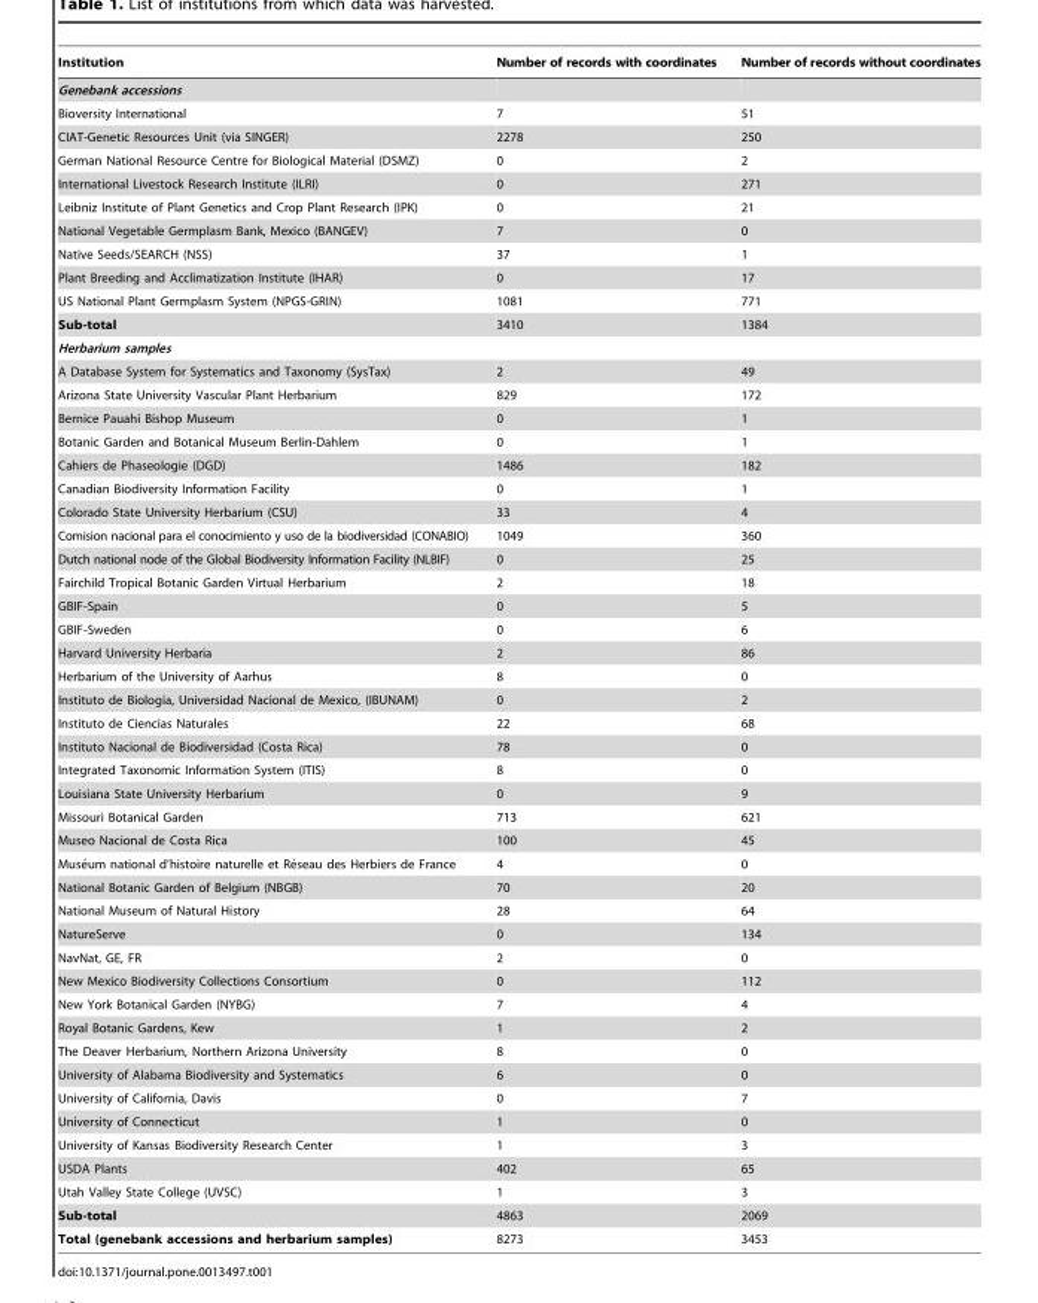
<table><thead><tr><td>Institution</td><td>Number of records with coordinates</td><td>Number of records without coordinates</td></tr></thead><tbody><tr><td colspan="3">Genebank accessions</td></tr><tr><td>Bioversity International</td><td>7</td><td>51</td></tr><tr><td>CIAT-Genetic Resources Unit (via SINGER)</td><td>2278</td><td>250</td></tr><tr><td>German National Resource Centre for Biological Material (DSMZ)</td><td>0</td><td>2</td></tr><tr><td>International Livestock Research Institute (ILRI)</td><td>0</td><td>271</td></tr><tr><td>Leibniz Institute of Plant Genetics and Crop Plant Research (IPK)</td><td>0</td><td>21</td></tr><tr><td>National Vegetable Germplasm Bank, Mexico (BANGEV)</td><td>7</td><td>0</td></tr><tr><td>Native Seeds/SEARCH (NSS)</td><td>37</td><td>1</td></tr><tr><td>Plant Breeding and Acclimatization Institute (IHAR)</td><td>0</td><td>17</td></tr><tr><td>US National Plant Germplasm System (NPGS-GRIN)</td><td>1081</td><td>771</td></tr><tr><td>Sub-total</td><td>3410</td><td>1384</td></tr><tr><td colspan="3">Herbarium samples</td></tr><tr><td>A Database System for Systematics and Taxonomy (SysTax)</td><td>2</td><td>49</td></tr><tr><td>Arizona State University Vascular Plant Herbarium</td><td>829</td><td>172</td></tr><tr><td>Bernice Pauahi Bishop Museum</td><td>0</td><td>1</td></tr><tr><td>Botanic Garden and Botanical Museum Berlin-Dahlem</td><td>0</td><td>1</td></tr><tr><td>Cahiers de Phaseologie (DGD)</td><td>1486</td><td>182</td></tr><tr><td>Canadian Biodiversity Information Facility</td><td>0</td><td>1</td></tr><tr><td>Colorado State University Herbarium (CSU)</td><td>33</td><td>4</td></tr><tr><td>Comision nacional para el conocimiento y uso de la biodiversidad (CONABIO)</td><td>1049</td><td>360</td></tr><tr><td>Dutch national node of the Global Biodiversity Information Facility (NLBIF)</td><td>0</td><td>25</td></tr><tr><td>Fairchild Tropical Botanic Garden Virtual Herbarium</td><td>2</td><td>18</td></tr><tr><td>GBIF-Spain</td><td>0</td><td>5</td></tr><tr><td>GBIF-Sweden</td><td>0</td><td>6</td></tr><tr><td>Harvard University Herbaria</td><td>2</td><td>86</td></tr><tr><td>Herbarium of the University of Aarhus</td><td>8</td><td>0</td></tr><tr><td>Instituto de Biologia, Universidad Nacional de Mexico, (IBUNAM)</td><td>0</td><td>2</td></tr><tr><td>Instituto de Ciencias Naturales</td><td>22</td><td>68</td></tr><tr><td>Instituto Nacional de Biodiversidad (Costa Rica)</td><td>78</td><td>0</td></tr><tr><td>Integrated Taxonomic Information System (ITIS)</td><td>8</td><td>0</td></tr><tr><td>Louisiana State University Herbarium</td><td>0</td><td>9</td></tr><tr><td>Missouri Botanical Garden</td><td>713</td><td>621</td></tr><tr><td>Museo Nacional de Costa Rica</td><td>100</td><td>45</td></tr><tr><td>Muse´um national d’histoire naturelle et Re´seau des Herbiers de France</td><td>4</td><td>0</td></tr><tr><td>National Botanic Garden of Belgium (NBGB)</td><td>70</td><td>20</td></tr><tr><td>National Museum of Natural History</td><td>28</td><td>64</td></tr><tr><td>NatureServe</td><td>0</td><td>134</td></tr><tr><td>NavNat, GE, FR</td><td>2</td><td>0</td></tr><tr><td>New Mexico Biodiversity Collections Consortium</td><td>0</td><td>112</td></tr><tr><td>New York Botanical Garden (NYBG)</td><td>7</td><td>4</td></tr><tr><td>Royal Botanic Gardens, Kew</td><td>1</td><td>2</td></tr><tr><td>The Deaver Herbarium, Northern Arizona University</td><td>8</td><td>0</td></tr><tr><td>University of Alabama Biodiversity and Systematics</td><td>6</td><td>0</td></tr><tr><td>University of California, Davis</td><td>0</td><td>7</td></tr><tr><td>University of Connecticut</td><td>1</td><td>0</td></tr><tr><td>University of Kansas Biodiversity Research Center</td><td>1</td><td>3</td></tr><tr><td>USDA Plants</td><td>402</td><td>65</td></tr><tr><td>Utah Valley State College (UVSC)</td><td>1</td><td>3</td></tr><tr><td>Sub-total</td><td>4863</td><td>2069</td></tr><tr><td>Total (genebank accessions and herbarium samples)</td><td>8273</td><td>3453</td></tr></tbody></table>